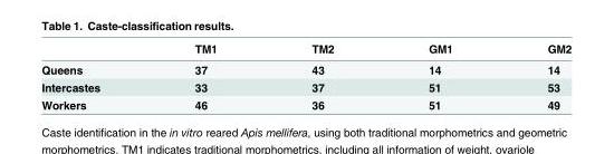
<table><thead><tr><td></td><td>TM1</td><td>TM2</td><td>GM1</td><td>GM2</td></tr></thead><tbody><tr><td>Queens</td><td>37</td><td>43</td><td>14</td><td>14</td></tr><tr><td>Intercastes</td><td>33</td><td>37</td><td>51</td><td>53</td></tr><tr><td>Workers</td><td>46</td><td>36</td><td>51</td><td>49</td></tr></tbody></table>